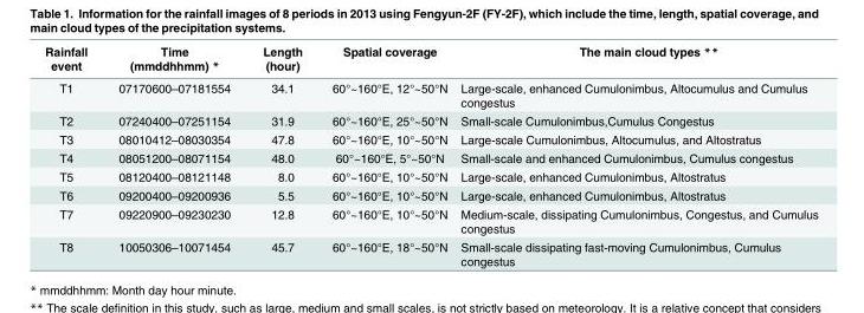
<table><thead><tr><td>Rainfall event</td><td>Time (mmddhhmm) *</td><td>Length (hour)</td><td>Spatial coverage</td><td>The main cloud types **</td></tr></thead><tbody><tr><td>T1</td><td>07170600–07181554</td><td>34.1</td><td>60°~160°E, 12°~50°N</td><td>Large-scale, enhanced Cumulonimbus, Altocumulus and Cumulus congestus</td></tr><tr><td>T2</td><td>07240400–07251154</td><td>31.9</td><td>60°~160°E, 25°~50°N</td><td>Small-scale Cumulonimbus,Cumulus Congestus</td></tr><tr><td>T3</td><td>08010412–08030354</td><td>47.8</td><td>60°~160°E, 10°~50°N</td><td>Large-scale Cumulonimbus, Altocumulus, and Altostratus</td></tr><tr><td>T4</td><td>08051200–08071154</td><td>48.0</td><td>60°~160°E, 5°~50°N</td><td>Small-scale and enhanced Cumulonimbus, Cumulus congestus</td></tr><tr><td>T5</td><td>08120400–08121148</td><td>8.0</td><td>60°~160°E, 10°~50°N</td><td>Large-scale, enhanced Cumulonimbus, Altostratus</td></tr><tr><td>T6</td><td>09200400–09200936</td><td>5.5</td><td>60°~160°E, 10°~50°N</td><td>Large-scale, enhanced Cumulonimbus, Altostratus</td></tr><tr><td>T7</td><td>09220900–09230230</td><td>12.8</td><td>60°~160°E, 10°~50°N</td><td>Medium-scale, dissipating Cumulonimbus, Congestus, and Cumulus congestus</td></tr><tr><td>T8</td><td>10050306–10071454</td><td>45.7</td><td>60°~160°E, 18°~50°N</td><td>Small-scale dissipating fast-moving Cumulonimbus, Cumulus congestus</td></tr></tbody></table>